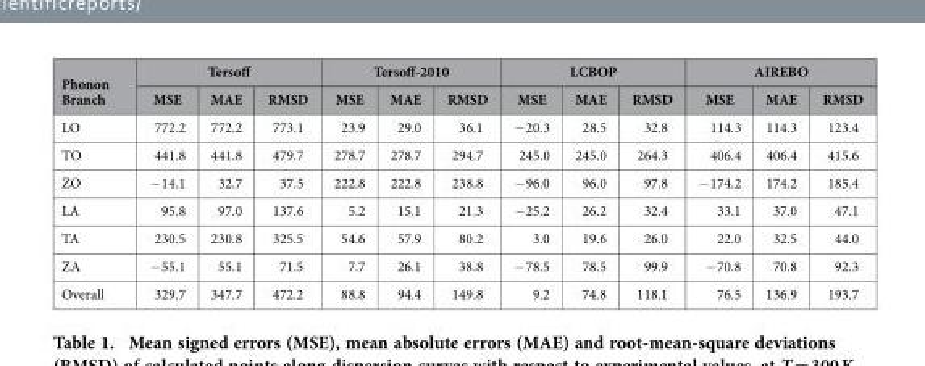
<table><thead><tr><td rowspan="2">Phonon Branch</td><td colspan="3">Tersoff</td><td colspan="3">Tersoff-2010</td><td colspan="3">LCBOP</td><td colspan="3">AIREBO</td></tr><tr><td>MSE</td><td>MAE</td><td>RMSD</td><td>MSE</td><td>MAE</td><td>RMSD</td><td>MSE</td><td>MAE</td><td>RMSD</td><td>MSE</td><td>MAE</td><td>RMSD</td></tr></thead><tbody><tr><td>LO</td><td>772.2</td><td>772.2</td><td>773.1</td><td>23.9</td><td>29.0</td><td>36.1</td><td>− 20.3</td><td>28.5</td><td>32.8</td><td>114.3</td><td>114.3</td><td>123.4</td></tr><tr><td>TO</td><td>441.8</td><td>441.8</td><td>479.7</td><td>278.7</td><td>278.7</td><td>294.7</td><td>245.0</td><td>245.0</td><td>264.3</td><td>406.4</td><td>406.4</td><td>415.6</td></tr><tr><td>ZO</td><td>− 14.1</td><td>32.7</td><td>37.5</td><td>222.8</td><td>222.8</td><td>238.8</td><td>− 96.0</td><td>96.0</td><td>97.8</td><td>− 174.2</td><td>174.2</td><td>185.4</td></tr><tr><td>LA</td><td>95.8</td><td>97.0</td><td>137.6</td><td>5.2</td><td>15.1</td><td>21.3</td><td>− 25.2</td><td>26.2</td><td>32.4</td><td>33.1</td><td>37.0</td><td>47.1</td></tr><tr><td>TA</td><td>230.5</td><td>230.8</td><td>325.5</td><td>54.6</td><td>57.9</td><td>80.2</td><td>3.0</td><td>19.6</td><td>26.0</td><td>22.0</td><td>32.5</td><td>44.0</td></tr><tr><td>ZA</td><td>− 55.1</td><td>55.1</td><td>71.5</td><td>7.7</td><td>26.1</td><td>38.8</td><td>− 78.5</td><td>78.5</td><td>99.9</td><td>− 70.8</td><td>70.8</td><td>92.3</td></tr><tr><td>Overall</td><td>329.7</td><td>347.7</td><td>472.2</td><td>88.8</td><td>94.4</td><td>149.8</td><td>9.2</td><td>74.8</td><td>118.1</td><td>76.5</td><td>136.9</td><td>193.7</td></tr></tbody></table>